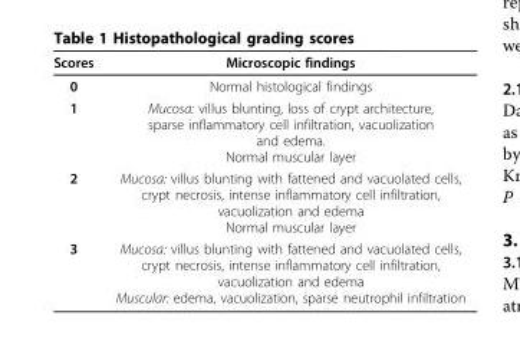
<table><thead><tr><td>Scores</td><td>Microscopic findings</td></tr></thead><tbody><tr><td>0</td><td>Normal histological findings</td></tr><tr><td>1</td><td>Mucosa: villus blunting, loss of crypt architecture, sparse inflammatory cell infiltration, vacuolization and edema. Normal muscular layer</td></tr><tr><td>2</td><td>Mucosa: villus blunting with fattened and vacuolated cells, crypt necrosis, intense inflammatory cell infiltration, vacuolization and edema Normal muscular layer</td></tr><tr><td>3</td><td>Mucosa: villus blunting with fattened and vacuolated cells, crypt necrosis, intense inflammatory cell infiltration, vacuolization and edema Muscular: edema, vacuolization, sparse neutrophil infiltration</td></tr></tbody></table>